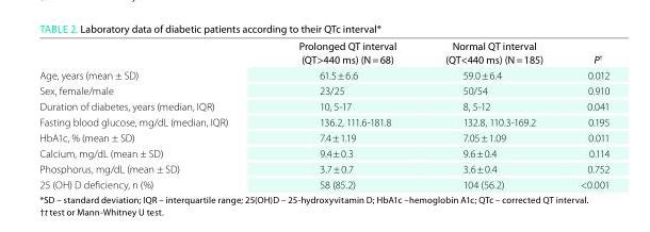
<table><thead><tr><td></td><td>Prolonged QT interval (QT&gt;440 ms) (n = 68)</td><td>normal QT interval (QT&lt;440 ms) (n = 185)</td><td>P<sup>†</sup></td></tr></thead><tbody><tr><td>Age, years (mean ± SD)</td><td>61.5 ± 6.6</td><td>59.0 ± 6.4</td><td>0.012</td></tr><tr><td>Sex, female/male</td><td>23/25</td><td>50/54</td><td>0.910</td></tr><tr><td>Duration of diabetes, years (median, IQR)</td><td>10, 5-17</td><td>8, 5-12</td><td>0.041</td></tr><tr><td>Fasting blood glucose, mg/dL (median, IQR)</td><td>136.2, 111.6-181.8</td><td>132.8, 110.3-169.2</td><td>0.195</td></tr><tr><td>HbA1c, % (mean ± SD)</td><td>7.4 ± 1.19</td><td>7.05 ± 1.09</td><td>0.011</td></tr><tr><td>Calcium, mg/dL (mean ± SD)</td><td>9.4 ± 0.3</td><td>9.6 ± 0.4</td><td>0.114</td></tr><tr><td>Phosphorus, mg/dL (mean ± SD)</td><td>3.7 ± 0.7</td><td>3.6 ± 0.4</td><td>0.752</td></tr><tr><td>25 (OH) D deficiency, n (%)</td><td>58 (85.2)</td><td>104 (56.2)</td><td>&lt;0.001</td></tr></tbody></table>